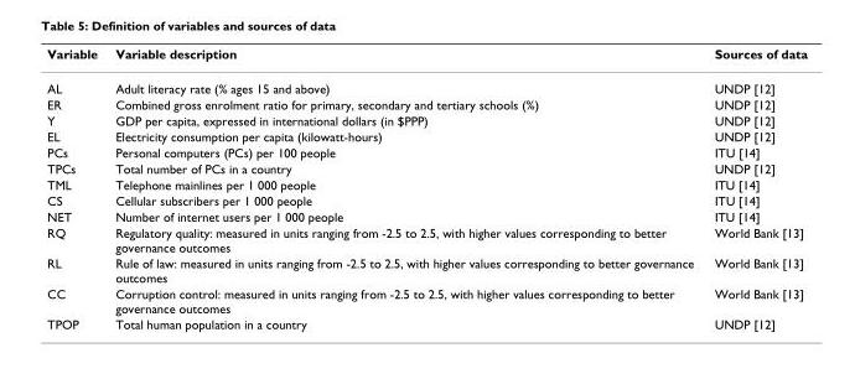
<table><thead><tr><td>Variable</td><td>Variable description</td><td>Sources of data</td></tr></thead><tbody><tr><td>AL</td><td>Adult literacy rate (% ages 15 and above)</td><td>UNDP [12]</td></tr><tr><td>ER</td><td>Combined gross enrolment ratio for primary, secondary and tertiary schools (%)</td><td>UNDP [12]</td></tr><tr><td>Y</td><td>GDP per capita, expressed in international dollars (in $PPP)</td><td>UNDP [12]</td></tr><tr><td>EL</td><td>Electricity consumption per capita (kilowatt-hours)</td><td>UNDP [12]</td></tr><tr><td>PCs</td><td>Personal computers (PCs) per 100 people</td><td>ITU [14]</td></tr><tr><td>TPCs</td><td>Total number of PCs in a country</td><td>UNDP [12]</td></tr><tr><td>TML</td><td>Telephone mainlines per 1 000 people</td><td>ITU [14]</td></tr><tr><td>CS</td><td>Cellular subscribers per 1 000 people</td><td>ITU [14]</td></tr><tr><td>NET</td><td>Number of internet users per 1 000 people</td><td>ITU [14]</td></tr><tr><td>RQ</td><td>Regulatory quality: measured in units ranging from -2.5 to 2.5, with higher values corresponding to better governance outcomes</td><td>World Bank [13]</td></tr><tr><td>RL</td><td>Rule of law: measured in units ranging from -2.5 to 2.5, with higher values corresponding to better governance outcomes</td><td>World Bank [13]</td></tr><tr><td>CC</td><td>Corruption control: measured in units ranging from -2.5 to 2.5, with higher values corresponding to better governance outcomes</td><td>World Bank [13]</td></tr><tr><td>TPOP</td><td>Total human population in a country</td><td>UNDP [12]</td></tr></tbody></table>